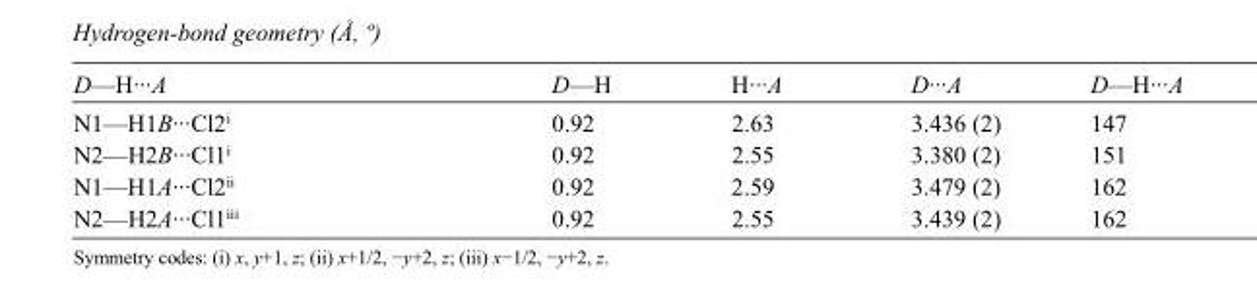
<table><tbody><tr><td>D—H···A</td><td>D—H</td><td>H···A</td><td>D···A</td><td>D—H···A</td></tr><tr><td>N1—H1B···Cl2<sup>i</sup></td><td>0.92</td><td>2.63</td><td>3.436 (2)</td><td>147</td></tr><tr><td>N2—H2B···Cl1<sup>i</sup></td><td>0.92</td><td>2.55</td><td>3.380 (2)</td><td>151</td></tr><tr><td>N1—H1A···Cl2<sup>ii</sup></td><td>0.92</td><td>2.59</td><td>3.479 (2)</td><td>162</td></tr><tr><td>N2—H2A···Cl1<sup>iii</sup></td><td>0.92</td><td>2.55</td><td>3.439 (2)</td><td>162</td></tr></tbody></table>